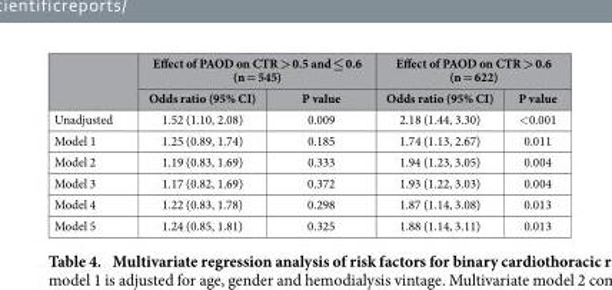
<table><thead><tr><td rowspan="2"></td><td colspan="2">Effect of PAOD on CTR &gt; 0.5 and ≤ 0.6 (n = 545)</td><td colspan="2">Effect of PAOD on CTR &gt; 0.6 (n = 622)</td></tr><tr><td>Odds ratio (95% CI)</td><td>P value</td><td>Odds ratio (95% CI)</td><td>P value</td></tr></thead><tbody><tr><td>Unadjusted</td><td>1.52 (1.10, 2.08)</td><td>0.009</td><td>2.18 (1.44, 3.30)</td><td>&lt; 0.001</td></tr><tr><td>Model 1</td><td>1.25 (0.89, 1.74)</td><td>0.185</td><td>1.74 (1.13, 2.67)</td><td>0.011</td></tr><tr><td>Model 2</td><td>1.19 (0.83, 1.69)</td><td>0.333</td><td>1.94 (1.23, 3.05)</td><td>0.004</td></tr><tr><td>Model 3</td><td>1.17 (0.82, 1.69)</td><td>0.372</td><td>1.93 (1.22, 3.03)</td><td>0.004</td></tr><tr><td>Model 4</td><td>1.22 (0.83, 1.78)</td><td>0.298</td><td>1.87 (1.14, 3.08)</td><td>0.013</td></tr><tr><td>Model 5</td><td>1.24 (0.85, 1.81)</td><td>0.325</td><td>1.88 (1.14, 3.11)</td><td>0.013</td></tr></tbody></table>